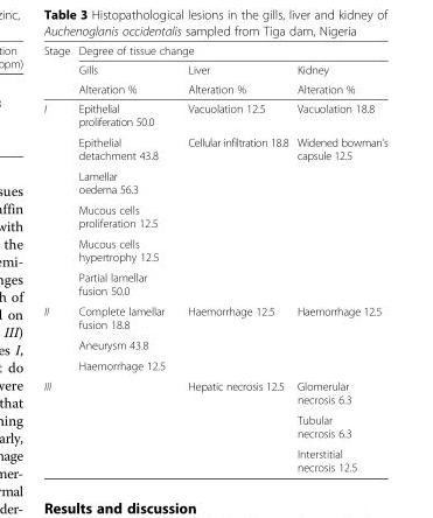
<table><thead><tr><td rowspan="3">Stage</td><td colspan="3">Degree of tissue change</td></tr><tr><td rowspan="2">Gills Alteration %</td><td rowspan="2">Liver Alteration %</td><td rowspan="2">Kidney Alteration %</td></tr><tr></tr></thead><tbody><tr><td rowspan="6">I</td><td>Epithelial proliferation 50.0</td><td>Vacuolation 12.5</td><td>Vacuolation 18.8</td></tr><tr><td>Epithelial detachment 43.8</td><td>Cellular infiltration 18.8</td><td>Widened bowman&#x27;s capsule 12.5</td></tr><tr><td>Lamellar oedema 56.3</td><td></td><td></td></tr><tr><td>Mucous cells proliferation 12.5</td><td></td><td></td></tr><tr><td>Mucous cells hypertrophy 12.5</td><td></td><td></td></tr><tr><td>Partial lamellar fusion 50.0</td><td></td><td></td></tr><tr><td rowspan="3">II</td><td>Complete lamellar fusion 18.8</td><td>Haemorrhage 12.5</td><td>Haemorrhage 12.5</td></tr><tr><td>Aneurysm 43.8</td><td></td><td></td></tr><tr><td>Haemorrhage 12.5</td><td></td><td></td></tr><tr><td rowspan="3">III</td><td rowspan="3"></td><td rowspan="3">Hepatic necrosis 12.5</td><td>Glomerular necrosis 6.3</td></tr><tr><td>Tubular necrosis 6.3</td></tr><tr><td>Interstitial necrosis 12.5</td></tr></tbody></table>